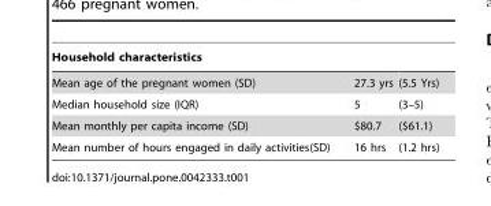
<table><thead><tr><td>Household characteristics</td><td></td><td></td></tr></thead><tbody><tr><td>Mean age of the pregnant women (SD)</td><td>27.3 yrs</td><td>(5.5 Yrs)</td></tr><tr><td>Median household size (IQR)</td><td>5</td><td>(3–5)</td></tr><tr><td>Mean monthly per capita income (SD)</td><td>$80.7</td><td>($61.1)</td></tr><tr><td>Mean number of hours engaged in daily activities(SD)</td><td>16 hrs</td><td>(1.2 hrs)</td></tr></tbody></table>